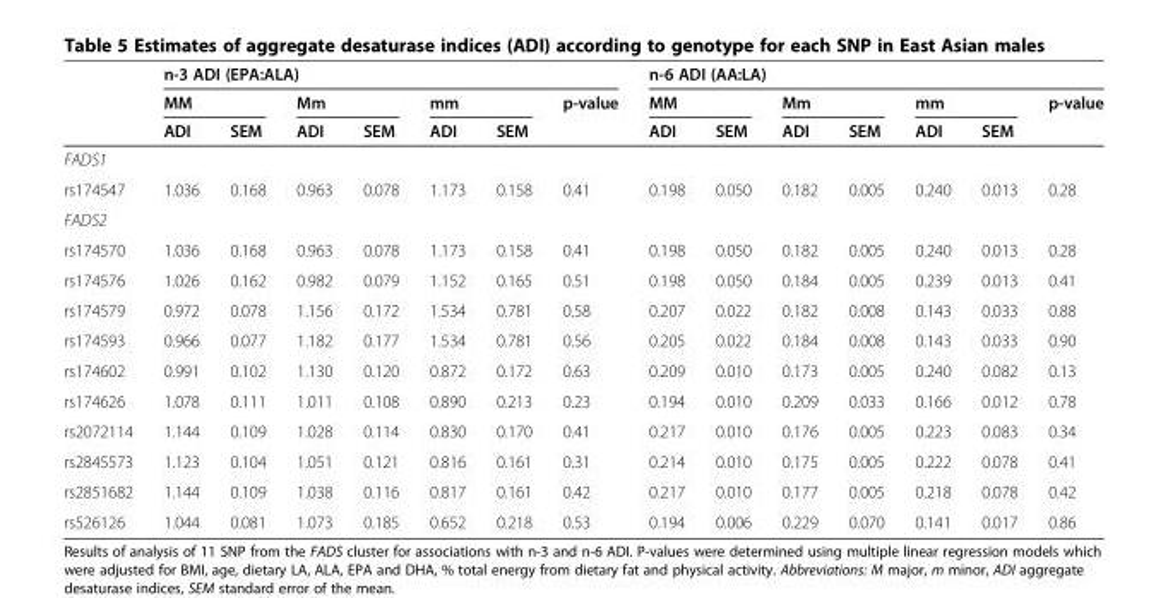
<table><thead><tr><td rowspan="3"></td><td colspan="7">n-3 ADI (EPA:ALA)</td><td colspan="7">n-6 ADI (AA:LA)</td></tr><tr><td colspan="2">MM</td><td colspan="2">Mm</td><td colspan="2">mm</td><td rowspan="2">p-value</td><td colspan="2">MM</td><td colspan="2">Mm</td><td colspan="2">mm</td><td rowspan="2">p-value</td></tr><tr><td>ADI</td><td>SEM</td><td>ADI</td><td>SEM</td><td>ADI</td><td>SEM</td><td>ADI</td><td>SEM</td><td>ADI</td><td>SEM</td><td>ADI</td><td>SEM</td></tr></thead><tbody><tr><td colspan="15">FADS1</td></tr><tr><td>rs174547</td><td>1.036</td><td>0.168</td><td>0.963</td><td>0.078</td><td>1.173</td><td>0.158</td><td>0.41</td><td>0.198</td><td>0.050</td><td>0.182</td><td>0.005</td><td>0.240</td><td>0.013</td><td>0.28</td></tr><tr><td colspan="15">FADS2</td></tr><tr><td>rs174570</td><td>1.036</td><td>0.168</td><td>0.963</td><td>0.078</td><td>1.173</td><td>0.158</td><td>0.41</td><td>0.198</td><td>0.050</td><td>0.182</td><td>0.005</td><td>0.240</td><td>0.013</td><td>0.28</td></tr><tr><td>rs174576</td><td>1.026</td><td>0.162</td><td>0.982</td><td>0.079</td><td>1.152</td><td>0.165</td><td>0.51</td><td>0.198</td><td>0.050</td><td>0.184</td><td>0.005</td><td>0.239</td><td>0.013</td><td>0.41</td></tr><tr><td>rs174579</td><td>0.972</td><td>0.078</td><td>1.156</td><td>0.172</td><td>1.534</td><td>0.781</td><td>0.58</td><td>0.207</td><td>0.022</td><td>0.182</td><td>0.008</td><td>0.143</td><td>0.033</td><td>0.88</td></tr><tr><td>rs174593</td><td>0.966</td><td>0.077</td><td>1.182</td><td>0.177</td><td>1.534</td><td>0.781</td><td>0.56</td><td>0.205</td><td>0.022</td><td>0.184</td><td>0.008</td><td>0.143</td><td>0.033</td><td>0.90</td></tr><tr><td>rs174602</td><td>0.991</td><td>0.102</td><td>1.130</td><td>0.120</td><td>0.872</td><td>0.172</td><td>0.63</td><td>0.209</td><td>0.010</td><td>0.173</td><td>0.005</td><td>0.240</td><td>0.082</td><td>0.13</td></tr><tr><td>rs174626</td><td>1.078</td><td>0.111</td><td>1.011</td><td>0.108</td><td>0.890</td><td>0.213</td><td>0.23</td><td>0.194</td><td>0.010</td><td>0.209</td><td>0.033</td><td>0.166</td><td>0.012</td><td>0.78</td></tr><tr><td>rs2072114</td><td>1.144</td><td>0.109</td><td>1.028</td><td>0.114</td><td>0.830</td><td>0.170</td><td>0.41</td><td>0.217</td><td>0.010</td><td>0.176</td><td>0.005</td><td>0.223</td><td>0.083</td><td>0.34</td></tr><tr><td>rs2845573</td><td>1.123</td><td>0.104</td><td>1.051</td><td>0.121</td><td>0.816</td><td>0.161</td><td>0.31</td><td>0.214</td><td>0.010</td><td>0.175</td><td>0.005</td><td>0.222</td><td>0.078</td><td>0.41</td></tr><tr><td>rs2851682</td><td>1.144</td><td>0.109</td><td>1.038</td><td>0.116</td><td>0.817</td><td>0.161</td><td>0.42</td><td>0.217</td><td>0.010</td><td>0.177</td><td>0.005</td><td>0.218</td><td>0.078</td><td>0.42</td></tr><tr><td>rs526126</td><td>1.044</td><td>0.081</td><td>1.073</td><td>0.185</td><td>0.652</td><td>0.218</td><td>0.53</td><td>0.194</td><td>0.006</td><td>0.229</td><td>0.070</td><td>0.141</td><td>0.017</td><td>0.86</td></tr></tbody></table>